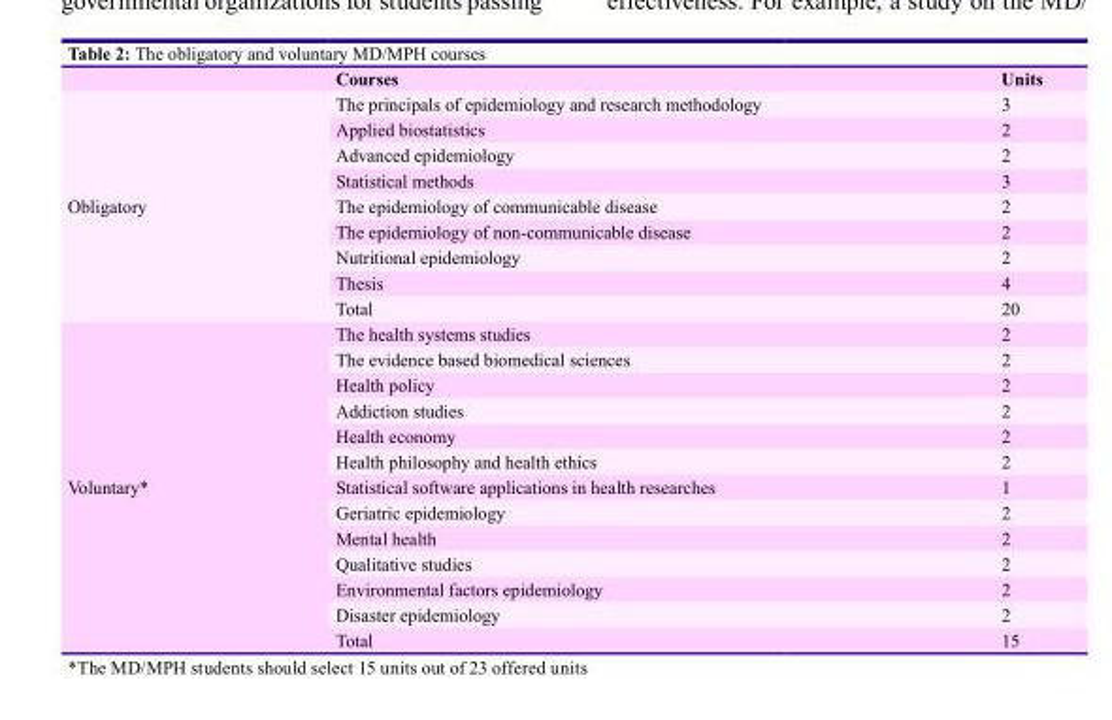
<table><thead><tr><td></td><td>Courses</td><td>Units</td></tr></thead><tbody><tr><td rowspan="9">Obligatory</td><td>The principals of epidemiology and research methodology</td><td>3</td></tr><tr><td>Applied biostatistics</td><td>2</td></tr><tr><td>Advanced epidemiology</td><td>2</td></tr><tr><td>Statistical methods</td><td>3</td></tr><tr><td>The epidemiology of communicable disease</td><td>2</td></tr><tr><td>The epidemiology of non-communicable disease</td><td>2</td></tr><tr><td>Nutritional epidemiology</td><td>2</td></tr><tr><td>Thesis</td><td>4</td></tr><tr><td>Total</td><td>20</td></tr><tr><td rowspan="13">Voluntary*</td><td>The health systems studies</td><td>2</td></tr><tr><td>The evidence based biomedical sciences</td><td>2</td></tr><tr><td>Health policy</td><td>2</td></tr><tr><td>Addiction studies</td><td>2</td></tr><tr><td>Health economy</td><td>2</td></tr><tr><td>Health philosophy and health ethics</td><td>2</td></tr><tr><td>Statistical software applications in health researches</td><td>1</td></tr><tr><td>Geriatric epidemiology</td><td>2</td></tr><tr><td>Mental health</td><td>2</td></tr><tr><td>Qualitative studies</td><td>2</td></tr><tr><td>Environmental factors epidemiology</td><td>2</td></tr><tr><td>Disaster epidemiology</td><td>2</td></tr><tr><td>Total</td><td>15</td></tr></tbody></table>